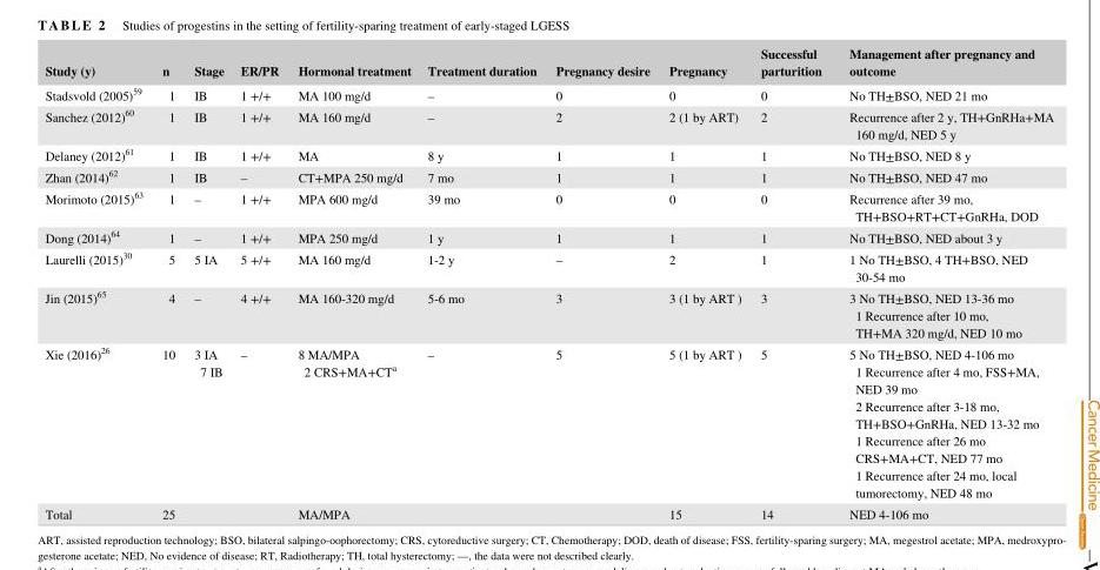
<table><thead><tr><td>Study (y)</td><td>n</td><td>Stage</td><td>ER/PR</td><td>Hormonal treatment</td><td>Treatment duration</td><td>Pregnancy desire</td><td>Pregnancy</td><td>Successful parturition</td><td>Management after pregnancy and outcome</td></tr></thead><tbody><tr><td>Stadsvold (2005)<sup>59</sup></td><td>1</td><td>IB</td><td>1 +/+</td><td>MA 100 mg/d</td><td>–</td><td>0</td><td>0</td><td>0</td><td>No TH±BSO, NED 21 mo</td></tr><tr><td>Sanchez (2012)<sup>60</sup></td><td>1</td><td>IB</td><td>1 +/+</td><td>MA 160 mg/d</td><td>–</td><td>2</td><td>2 (1 by ART)</td><td>2</td><td>Recurrence after 2 y, TH+GnRHa+MA 160 mg/d, NED 5 y</td></tr><tr><td>Delaney (2012)<sup>61</sup></td><td>1</td><td>IB</td><td>1 +/+</td><td>MA</td><td>8 y</td><td>1</td><td>1</td><td>1</td><td>No TH±BSO, NED 8 y</td></tr><tr><td>Zhan (2014)<sup>62</sup></td><td>1</td><td>IB</td><td>–</td><td>CT+MPA 250 mg/d</td><td>7 mo</td><td>1</td><td>1</td><td>1</td><td>No TH±BSO, NED 47 mo</td></tr><tr><td>Morimoto (2015)<sup>63</sup></td><td>1</td><td>–</td><td>1 +/+</td><td>MPA 600 mg/d</td><td>39 mo</td><td>0</td><td>0</td><td>0</td><td>Recurrence after 39 mo, TH+BSO+RT+CT+GnRHa, DOD</td></tr><tr><td>Dong (2014)<sup>64</sup></td><td>1</td><td>–</td><td>1 +/+</td><td>MPA 250 mg/d</td><td>1 y</td><td>1</td><td>1</td><td>1</td><td>No TH±BSO, NED about 3 y</td></tr><tr><td>Laurelli (2015)<sup>30</sup></td><td>5</td><td>5 IA</td><td>5 +/+</td><td>MA 160 mg/d</td><td>1‐2 y</td><td>–</td><td>2</td><td>1</td><td>1 No TH±BSO, 4 TH+BSO, NED 30‐54 mo</td></tr><tr><td>Jin (2015)<sup>65</sup></td><td>4</td><td>–</td><td>4 +/+</td><td>MA 160‐320 mg/d</td><td>5‐6 mo</td><td>3</td><td>3 (1 by ART )</td><td>3</td><td>3 No TH±BSO, NED 13‐36 mo 1 Recurrence after 10 mo, TH+MA 320 mg/d, NED 10 mo</td></tr><tr><td>Xie (2016)<sup>26</sup></td><td>10</td><td>3 IA 7 IB</td><td>–</td><td>8 MA/MPA 2 CRS+MA+CT<sup>a</sup></td><td>–</td><td>5</td><td>5 (1 by ART )</td><td>5</td><td>5 No TH±BSO, NED 4‐106 mo 1 Recurrence after 4 mo, FSS+MA, NED 39 mo 2 Recurrence after 3‐18 mo, TH+BSO+GnRHa, NED 13‐32 mo 1 Recurrence after 26 mo CRS+MA+CT, NED 77 mo 1 Recurrence after 24 mo, local tumorectomy, NED 48 mo</td></tr><tr><td>Total</td><td>25</td><td></td><td></td><td>MA/MPA</td><td></td><td></td><td>15</td><td>14</td><td>NED 4‐106 mo</td></tr></tbody></table>